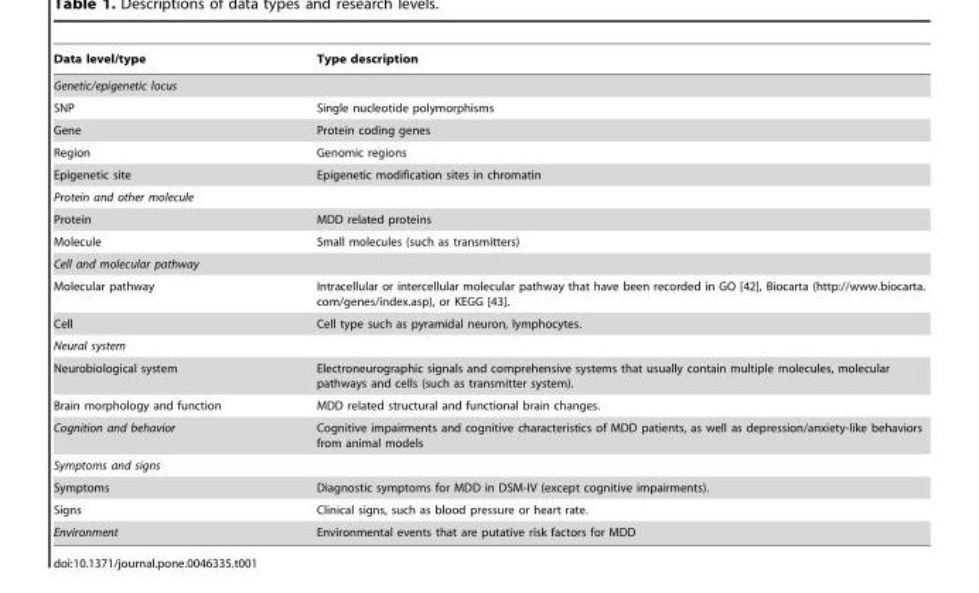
<table><thead><tr><td>Data level/type</td><td>Type description</td></tr></thead><tbody><tr><td colspan="2">Genetic/epigenetic locus</td></tr><tr><td>SNP</td><td>Single nucleotide polymorphisms</td></tr><tr><td>Gene</td><td>Protein coding genes</td></tr><tr><td>Region</td><td>Genomic regions</td></tr><tr><td>Epigenetic site</td><td>Epigenetic modification sites in chromatin</td></tr><tr><td colspan="2">Protein and other molecule</td></tr><tr><td>Protein</td><td>MDD related proteins</td></tr><tr><td>Molecule</td><td>Small molecules (such as transmitters)</td></tr><tr><td colspan="2">Cell and molecular pathway</td></tr><tr><td>Molecular pathway</td><td>Intracellular or intercellular molecular pathway that have been recorded in GO [42], Biocarta (http://www.biocarta. com/genes/index.asp), or KEGG [43].</td></tr><tr><td>Cell</td><td>Cell type such as pyramidal neuron, lymphocytes.</td></tr><tr><td colspan="2">Neural system</td></tr><tr><td>Neurobiological system</td><td>Electroneurographic signals and comprehensive systems that usually contain multiple molecules, molecular pathways and cells (such as transmitter system).</td></tr><tr><td>Brain morphology and function</td><td>MDD related structural and functional brain changes.</td></tr><tr><td>Cognition and behavior</td><td>Cognitive impairments and cognitive characteristics of MDD patients, as well as depression/anxiety-like behaviors from animal models</td></tr><tr><td colspan="2">Symptoms and signs</td></tr><tr><td>Symptoms</td><td>Diagnostic symptoms for MDD in DSM-IV (except cognitive impairments).</td></tr><tr><td>Signs</td><td>Clinical signs, such as blood pressure or heart rate.</td></tr><tr><td>Environment</td><td>Environmental events that are putative risk factors for MDD</td></tr></tbody></table>